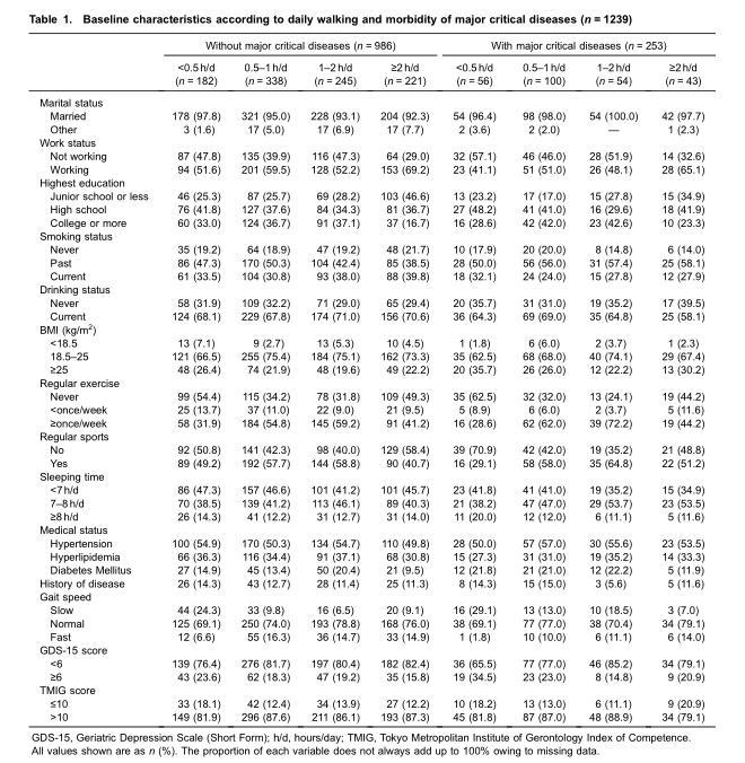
<table><thead><tr><td rowspan="2"></td><td colspan="4">Without major critical diseases (n = 986)</td><td colspan="4">With major critical diseases (n = 253)</td></tr><tr><td>&lt;0.5 h/d (n = 182)</td><td>0.5–1 h/d (n = 338)</td><td>1–2 h/d (n = 245)</td><td>≥2 h/d (n = 221)</td><td>&lt;0.5 h/d (n = 56)</td><td>0.5–1 h/d (n = 100)</td><td>1–2 h/d (n = 54)</td><td>≥2 h/d (n = 43)</td></tr></thead><tbody><tr><td colspan="9">Marital status</td></tr><tr><td>Married</td><td>178 (97.8)</td><td>321 (95.0)</td><td>228 (93.1)</td><td>204 (92.3)</td><td>54 (96.4)</td><td>98 (98.0)</td><td>54 (100.0)</td><td>42 (97.7)</td></tr><tr><td>Other</td><td>3 (1.6)</td><td>17 (5.0)</td><td>17 (6.9)</td><td>17 (7.7)</td><td>2 (3.6)</td><td>2 (2.0)</td><td>—</td><td>1 (2.3)</td></tr><tr><td colspan="9">Work status</td></tr><tr><td>Not working</td><td>87 (47.8)</td><td>135 (39.9)</td><td>116 (47.3)</td><td>64 (29.0)</td><td>32 (57.1)</td><td>46 (46.0)</td><td>28 (51.9)</td><td>14 (32.6)</td></tr><tr><td>Working</td><td>94 (51.6)</td><td>201 (59.5)</td><td>128 (52.2)</td><td>153 (69.2)</td><td>23 (41.1)</td><td>51 (51.0)</td><td>26 (48.1)</td><td>28 (65.1)</td></tr><tr><td colspan="9">Highest education</td></tr><tr><td>Junior school or less</td><td>46 (25.3)</td><td>87 (25.7)</td><td>69 (28.2)</td><td>103 (46.6)</td><td>13 (23.2)</td><td>17 (17.0)</td><td>15 (27.8)</td><td>15 (34.9)</td></tr><tr><td>High school</td><td>76 (41.8)</td><td>127 (37.6)</td><td>84 (34.3)</td><td>81 (36.7)</td><td>27 (48.2)</td><td>41 (41.0)</td><td>16 (29.6)</td><td>18 (41.9)</td></tr><tr><td>College or more</td><td>60 (33.0)</td><td>124 (36.7)</td><td>91 (37.1)</td><td>37 (16.7)</td><td>16 (28.6)</td><td>42 (42.0)</td><td>23 (42.6)</td><td>10 (23.3)</td></tr><tr><td colspan="9">Smoking status</td></tr><tr><td>Never</td><td>35 (19.2)</td><td>64 (18.9)</td><td>47 (19.2)</td><td>48 (21.7)</td><td>10 (17.9)</td><td>20 (20.0)</td><td>8 (14.8)</td><td>6 (14.0)</td></tr><tr><td>Past</td><td>86 (47.3)</td><td>170 (50.3)</td><td>104 (42.4)</td><td>85 (38.5)</td><td>28 (50.0)</td><td>56 (56.0)</td><td>31 (57.4)</td><td>25 (58.1)</td></tr><tr><td>Current</td><td>61 (33.5)</td><td>104 (30.8)</td><td>93 (38.0)</td><td>88 (39.8)</td><td>18 (32.1)</td><td>24 (24.0)</td><td>15 (27.8)</td><td>12 (27.9)</td></tr><tr><td colspan="9">Drinking status</td></tr><tr><td>Never</td><td>58 (31.9)</td><td>109 (32.2)</td><td>71 (29.0)</td><td>65 (29.4)</td><td>20 (35.7)</td><td>31 (31.0)</td><td>19 (35.2)</td><td>17 (39.5)</td></tr><tr><td>Current</td><td>124 (68.1)</td><td>229 (67.8)</td><td>174 (71.0)</td><td>156 (70.6)</td><td>36 (64.3)</td><td>69 (69.0)</td><td>35 (64.8)</td><td>25 (58.1)</td></tr><tr><td colspan="9">BMI (kg/m<sup>2</sup>)</td></tr><tr><td>&lt;18.5</td><td>13 (7.1)</td><td>9 (2.7)</td><td>13 (5.3)</td><td>10 (4.5)</td><td>1 (1.8)</td><td>6 (6.0)</td><td>2 (3.7)</td><td>1 (2.3)</td></tr><tr><td>18.5–25</td><td>121 (66.5)</td><td>255 (75.4)</td><td>184 (75.1)</td><td>162 (73.3)</td><td>35 (62.5)</td><td>68 (68.0)</td><td>40 (74.1)</td><td>29 (67.4)</td></tr><tr><td>≥25</td><td>48 (26.4)</td><td>74 (21.9)</td><td>48 (19.6)</td><td>49 (22.2)</td><td>20 (35.7)</td><td>26 (26.0)</td><td>12 (22.2)</td><td>13 (30.2)</td></tr><tr><td colspan="9">Regular exercise</td></tr><tr><td>Never</td><td>99 (54.4)</td><td>115 (34.2)</td><td>78 (31.8)</td><td>109 (49.3)</td><td>35 (62.5)</td><td>32 (32.0)</td><td>13 (24.1)</td><td>19 (44.2)</td></tr><tr><td>&lt;once/week</td><td>25 (13.7)</td><td>37 (11.0)</td><td>22 (9.0)</td><td>21 (9.5)</td><td>5 (8.9)</td><td>6 (6.0)</td><td>2 (3.7)</td><td>5 (11.6)</td></tr><tr><td>≥once/week</td><td>58 (31.9)</td><td>184 (54.8)</td><td>145 (59.2)</td><td>91 (41.2)</td><td>16 (28.6)</td><td>62 (62.0)</td><td>39 (72.2)</td><td>19 (44.2)</td></tr><tr><td colspan="9">Regular sports</td></tr><tr><td>No</td><td>92 (50.8)</td><td>141 (42.3)</td><td>98 (40.0)</td><td>129 (58.4)</td><td>39 (70.9)</td><td>42 (42.0)</td><td>19 (35.2)</td><td>21 (48.8)</td></tr><tr><td>Yes</td><td>89 (49.2)</td><td>192 (57.7)</td><td>144 (58.8)</td><td>90 (40.7)</td><td>16 (29.1)</td><td>58 (58.0)</td><td>35 (64.8)</td><td>22 (51.2)</td></tr><tr><td colspan="9">Sleeping time</td></tr><tr><td>&lt;7 h/d</td><td>86 (47.3)</td><td>157 (46.6)</td><td>101 (41.2)</td><td>101 (45.7)</td><td>23 (41.8)</td><td>41 (41.0)</td><td>19 (35.2)</td><td>15 (34.9)</td></tr><tr><td>7–8 h/d</td><td>70 (38.5)</td><td>139 (41.2)</td><td>113 (46.1)</td><td>89 (40.3)</td><td>21 (38.2)</td><td>47 (47.0)</td><td>29 (53.7)</td><td>23 (53.5)</td></tr><tr><td>≥8 h/d</td><td>26 (14.3)</td><td>41 (12.2)</td><td>31 (12.7)</td><td>31 (14.0)</td><td>11 (20.0)</td><td>12 (12.0)</td><td>6 (11.1)</td><td>5 (11.6)</td></tr><tr><td colspan="9">Medical status</td></tr><tr><td>Hypertension</td><td>100 (54.9)</td><td>170 (50.3)</td><td>134 (54.7)</td><td>110 (49.8)</td><td>28 (50.0)</td><td>57 (57.0)</td><td>30 (55.6)</td><td>23 (53.5)</td></tr><tr><td>Hyperlipidemia</td><td>66 (36.3)</td><td>116 (34.4)</td><td>91 (37.1)</td><td>68 (30.8)</td><td>15 (27.3)</td><td>31 (31.0)</td><td>19 (35.2)</td><td>14 (33.3)</td></tr><tr><td>Diabetes Mellitus</td><td>27 (14.9)</td><td>45 (13.4)</td><td>50 (20.4)</td><td>21 (9.5)</td><td>12 (21.8)</td><td>21 (21.0)</td><td>12 (22.2)</td><td>5 (11.9)</td></tr><tr><td>History of disease</td><td>26 (14.3)</td><td>43 (12.7)</td><td>28 (11.4)</td><td>25 (11.3)</td><td>8 (14.3)</td><td>15 (15.0)</td><td>3 (5.6)</td><td>5 (11.6)</td></tr><tr><td colspan="9">Gait speed</td></tr><tr><td>Slow</td><td>44 (24.3)</td><td>33 (9.8)</td><td>16 (6.5)</td><td>20 (9.1)</td><td>16 (29.1)</td><td>13 (13.0)</td><td>10 (18.5)</td><td>3 (7.0)</td></tr><tr><td>Normal</td><td>125 (69.1)</td><td>250 (74.0)</td><td>193 (78.8)</td><td>168 (76.0)</td><td>38 (69.1)</td><td>77 (77.0)</td><td>38 (70.4)</td><td>34 (79.1)</td></tr><tr><td>Fast</td><td>12 (6.6)</td><td>55 (16.3)</td><td>36 (14.7)</td><td>33 (14.9)</td><td>1 (1.8)</td><td>10 (10.0)</td><td>6 (11.1)</td><td>6 (14.0)</td></tr><tr><td colspan="9">GDS-15 score</td></tr><tr><td>&lt;6</td><td>139 (76.4)</td><td>276 (81.7)</td><td>197 (80.4)</td><td>182 (82.4)</td><td>36 (65.5)</td><td>77 (77.0)</td><td>46 (85.2)</td><td>34 (79.1)</td></tr><tr><td>≥6</td><td>43 (23.6)</td><td>62 (18.3)</td><td>47 (19.2)</td><td>35 (15.8)</td><td>19 (34.5)</td><td>23 (23.0)</td><td>8 (14.8)</td><td>9 (20.9)</td></tr><tr><td colspan="9">TMIG score</td></tr><tr><td>≤10</td><td>33 (18.1)</td><td>42 (12.4)</td><td>34 (13.9)</td><td>27 (12.2)</td><td>10 (18.2)</td><td>13 (13.0)</td><td>6 (11.1)</td><td>9 (20.9)</td></tr><tr><td>&gt;10</td><td>149 (81.9)</td><td>296 (87.6)</td><td>211 (86.1)</td><td>193 (87.3)</td><td>45 (81.8)</td><td>87 (87.0)</td><td>48 (88.9)</td><td>34 (79.1)</td></tr></tbody></table>